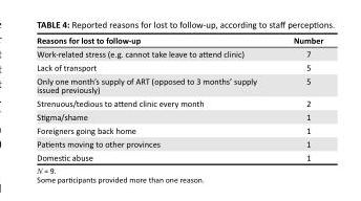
<table><thead><tr><td>Reasons for lost to follow-up</td><td>Number</td></tr></thead><tbody><tr><td>Work-related stress (e.g. cannot take leave to attend clinic)</td><td>7</td></tr><tr><td>Lack of transport</td><td>5</td></tr><tr><td>Only one month’s supply of ART (opposed to 3 months’ supply issued previously)</td><td>5</td></tr><tr><td>Strenuous/tedious to attend clinic every month</td><td>2</td></tr><tr><td>Stigma/shame</td><td>1</td></tr><tr><td>Foreigners going back home</td><td>1</td></tr><tr><td>Patients moving to other provinces</td><td>1</td></tr><tr><td>Domestic abuse</td><td>1</td></tr></tbody></table>